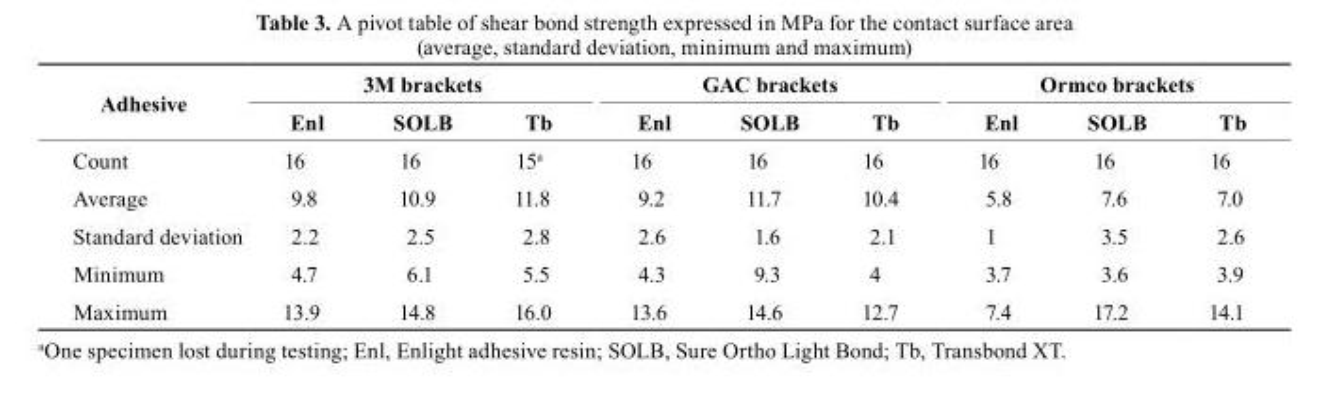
<table><thead><tr><td rowspan="2">Adhesive</td><td colspan="3">3M brackets</td><td colspan="3">GAc brackets</td><td colspan="3">Ormco brackets</td></tr><tr><td>Enl</td><td>sOLb</td><td>tb</td><td>Enl</td><td>sOLb</td><td>tb</td><td>Enl</td><td>sOLb</td><td>tb</td></tr></thead><tbody><tr><td>Count</td><td>16</td><td>16</td><td>15<sup>a</sup></td><td>16</td><td>16</td><td>16</td><td>16</td><td>16</td><td>16</td></tr><tr><td>Average</td><td>9.8</td><td>10.9</td><td>11.8</td><td>9.2</td><td>11.7</td><td>10.4</td><td>5.8</td><td>7.6</td><td>7.0</td></tr><tr><td>Standard deviation</td><td>2.2</td><td>2.5</td><td>2.8</td><td>2.6</td><td>1.6</td><td>2.1</td><td>1</td><td>3.5</td><td>2.6</td></tr><tr><td>Minimum</td><td>4.7</td><td>6.1</td><td>5.5</td><td>4.3</td><td>9.3</td><td>4</td><td>3.7</td><td>3.6</td><td>3.9</td></tr><tr><td>Maximum</td><td>13.9</td><td>14.8</td><td>16.0</td><td>13.6</td><td>14.6</td><td>12.7</td><td>7.4</td><td>17.2</td><td>14.1</td></tr></tbody></table>